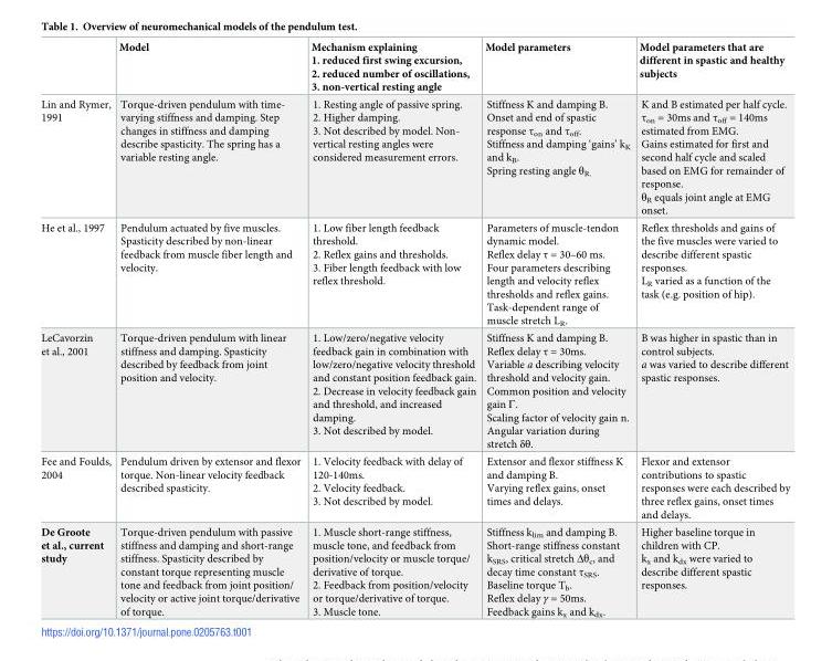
<table><thead><tr><td></td><td>Model</td><td>Mechanism explaining 1. reduced first swing excursion, 2. reduced number of oscillations, 3. non-vertical resting angle</td><td>Model parameters</td><td>Model parameters that are different in spastic and healthy subjects</td></tr></thead><tbody><tr><td>Lin and Rymer, 1991</td><td>Torque-driven pendulum with time- varying stiffness and damping. Step changes in stiffness and damping describe spasticity. The spring has a variable resting angle.</td><td>1. Resting angle of passive spring. 2. Higher damping. 3. Not described by model. Non- vertical resting angles were considered measurement errors.</td><td>Stiffness K and damping B. Onset and end of spastic response τ<sub>on</sub> and τ<sub>off</sub>. Stiffness and damping ‘gains’ k<sub>K</sub> and k<sub>B</sub>. Spring resting angle θ<sub>R.</sub></td><td>K and B estimated per half cycle. τ<sub>on</sub> = 30ms and τ<sub>off</sub> = 140ms estimated from EMG. Gains estimated for first and second half cycle and scaled based on EMG for remainder of response. θ<sub>R</sub> equals joint angle at EMG onset.</td></tr><tr><td>He et al., 1997</td><td>Pendulum actuated by five muscles. Spasticity described by non-linear feedback from muscle fiber length and velocity.</td><td>1. Low fiber length feedback threshold. 2. Reflex gains and thresholds. 3. Fiber length feedback with low reflex threshold.</td><td>Parameters of muscle-tendon dynamic model. Reflex delay τ = 30–60 ms. Four parameters describing length and velocity reflex thresholds and reflex gains. Task-dependent range of muscle stretch L<sub>R</sub>.</td><td>Reflex thresholds and gains of the five muscles were varied to describe different spastic responses. L<sub>R</sub> varied as a function of the task (e.g. position of hip).</td></tr><tr><td>LeCavorzin et al., 2001</td><td>Torque-driven pendulum with linear stiffness and damping. Spasticity described by feedback from joint position and velocity.</td><td>1. Low/zero/negative velocity feedback gain in combination with low/zero/negative velocity threshold and constant position feedback gain. 2. Decrease in velocity feedback gain and threshold, and increased damping. 3. Not described by model.</td><td>Stiffness K and damping B. Reflex delay τ = 30ms. Variable a describing velocity threshold and velocity gain. Common position and velocity gain Γ. Scaling factor of velocity gain n. Angular variation during stretch δθ.</td><td>B was higher in spastic than in control subjects. a was varied to describe different spastic responses.</td></tr><tr><td>Fee and Foulds, 2004</td><td>Pendulum driven by extensor and flexor torque. Non-linear velocity feedback described spasticity.</td><td>1. Velocity feedback with delay of 120-140ms. 2. Velocity feedback. 3. Not described by model.</td><td>Extensor and flexor stiffness K and damping B. Varying reflex gains, onset times and delays.</td><td>Flexor and extensor contributions to spastic responses were each described by three reflex gains, onset times and delays.</td></tr><tr><td>De Groote et al., current study</td><td>Torque-driven pendulum with passive stiffness and damping and short-range stiffness. Spasticity described by constant torque representing muscle tone and feedback from joint position/ velocity or active joint torque/derivative of torque.</td><td>1. Muscle short-range stiffness, muscle tone, and feedback from position/velocity or muscle torque/ derivative of torque. 2. Feedback from position/velocity or torque/derivative of torque. 3. Muscle tone.</td><td>Stiffness k<sub>lim</sub> and damping B. Short-range stiffness constant k<sub>SRS</sub>, critical stretch Δθ<sub>c</sub>, and decay time constant τ<sub>SRS</sub>. Baseline torque T<sub>b</sub>. Reflex delay γ = 50ms. Feedback gains k<sub>x</sub> and k<sub>dx</sub>.</td><td>Higher baseline torque in children with CP. k<sub>x</sub> and k<sub>dx</sub> were varied to describe different spastic responses.</td></tr></tbody></table>